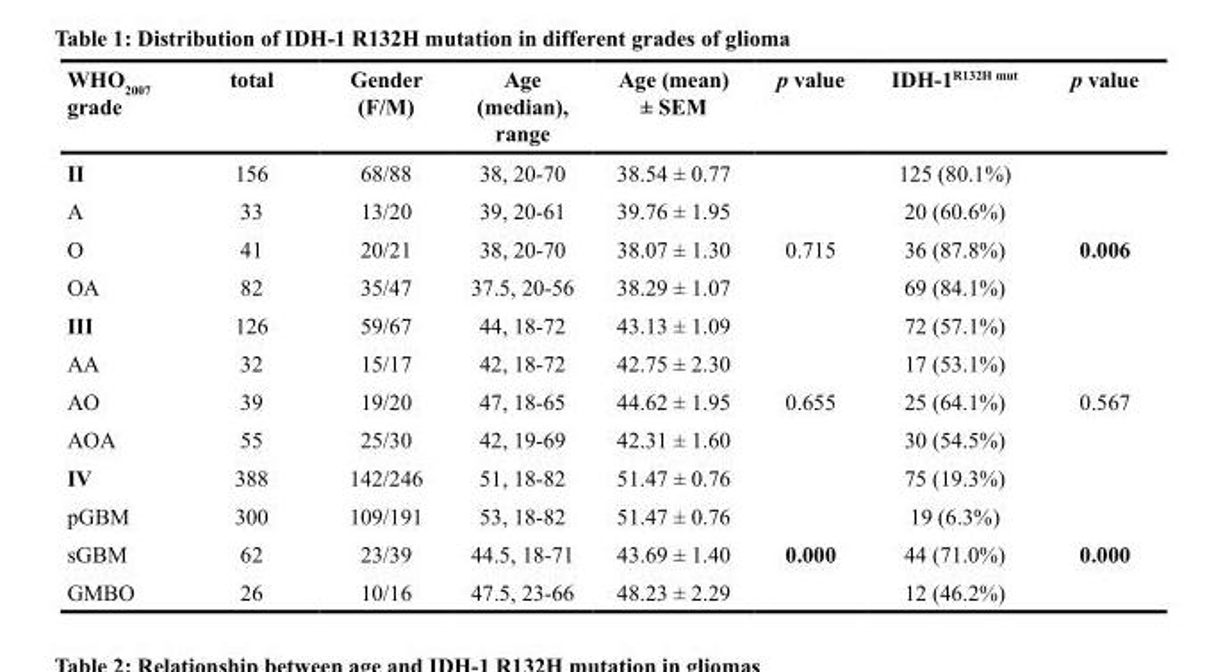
<table><thead><tr><td>WHO<sub>2007</sub> grade</td><td>total</td><td>Gender (F/M)</td><td>Age (median), range</td><td>Age (mean) ± SEM</td><td>p value</td><td>IDH-1<sup>R132H mut</sup></td><td>p value</td></tr></thead><tbody><tr><td>II</td><td>156</td><td>68/88</td><td>38, 20-70</td><td>38.54 ± 0.77</td><td></td><td>125 (80.1%)</td><td></td></tr><tr><td>A</td><td>33</td><td>13/20</td><td>39, 20-61</td><td>39.76 ± 1.95</td><td></td><td>20 (60.6%)</td><td></td></tr><tr><td>O</td><td>41</td><td>20/21</td><td>38, 20-70</td><td>38.07 ± 1.30</td><td>0.715</td><td>36 (87.8%)</td><td>0.006</td></tr><tr><td>OA</td><td>82</td><td>35/47</td><td>37.5, 20-56</td><td>38.29 ± 1.07</td><td></td><td>69 (84.1%)</td><td></td></tr><tr><td>III</td><td>126</td><td>59/67</td><td>44, 18-72</td><td>43.13 ± 1.09</td><td></td><td>72 (57.1%)</td><td></td></tr><tr><td>AA</td><td>32</td><td>15/17</td><td>42, 18-72</td><td>42.75 ± 2.30</td><td></td><td>17 (53.1%)</td><td></td></tr><tr><td>AO</td><td>39</td><td>19/20</td><td>47, 18-65</td><td>44.62 ± 1.95</td><td>0.655</td><td>25 (64.1%)</td><td>0.567</td></tr><tr><td>AOA</td><td>55</td><td>25/30</td><td>42, 19-69</td><td>42.31 ± 1.60</td><td></td><td>30 (54.5%)</td><td></td></tr><tr><td>IV</td><td>388</td><td>142/246</td><td>51, 18-82</td><td>51.47 ± 0.76</td><td></td><td>75 (19.3%)</td><td></td></tr><tr><td>pGBM</td><td>300</td><td>109/191</td><td>53, 18-82</td><td>51.47 ± 0.76</td><td></td><td>19 (6.3%)</td><td></td></tr><tr><td>sGBM</td><td>62</td><td>23/39</td><td>44.5, 18-71</td><td>43.69 ± 1.40</td><td>0.000</td><td>44 (71.0%)</td><td>0.000</td></tr><tr><td>GMBO</td><td>26</td><td>10/16</td><td>47.5, 23-66</td><td>48.23 ± 2.29</td><td></td><td>12 (46.2%)</td><td></td></tr></tbody></table>